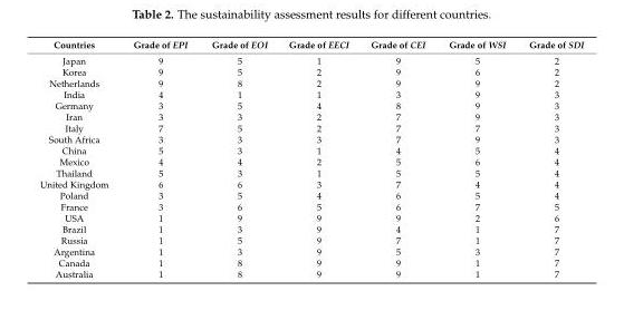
<table><thead><tr><td>Countries</td><td>Grade of EPI</td><td>Grade of EOI</td><td>Grade of EECI</td><td>Grade of CEI</td><td>Grade of WSI</td><td>Grade of SDI</td></tr></thead><tbody><tr><td>Japan</td><td>9</td><td>5</td><td>1</td><td>9</td><td>5</td><td>2</td></tr><tr><td>Korea</td><td>9</td><td>5</td><td>2</td><td>9</td><td>6</td><td>2</td></tr><tr><td>Netherlands</td><td>9</td><td>8</td><td>2</td><td>9</td><td>9</td><td>2</td></tr><tr><td>India</td><td>4</td><td>1</td><td>1</td><td>3</td><td>9</td><td>3</td></tr><tr><td>Germany</td><td>3</td><td>5</td><td>4</td><td>8</td><td>9</td><td>3</td></tr><tr><td>Iran</td><td>3</td><td>3</td><td>2</td><td>7</td><td>9</td><td>3</td></tr><tr><td>Italy</td><td>7</td><td>5</td><td>2</td><td>7</td><td>7</td><td>3</td></tr><tr><td>South Africa</td><td>3</td><td>3</td><td>3</td><td>7</td><td>9</td><td>3</td></tr><tr><td>China</td><td>5</td><td>3</td><td>1</td><td>4</td><td>5</td><td>4</td></tr><tr><td>Mexico</td><td>4</td><td>4</td><td>2</td><td>5</td><td>6</td><td>4</td></tr><tr><td>Thailand</td><td>5</td><td>3</td><td>1</td><td>5</td><td>5</td><td>4</td></tr><tr><td>United Kingdom</td><td>6</td><td>6</td><td>3</td><td>7</td><td>4</td><td>4</td></tr><tr><td>Poland</td><td>3</td><td>5</td><td>4</td><td>6</td><td>5</td><td>4</td></tr><tr><td>France</td><td>3</td><td>6</td><td>5</td><td>6</td><td>7</td><td>5</td></tr><tr><td>USA</td><td>1</td><td>9</td><td>9</td><td>9</td><td>2</td><td>6</td></tr><tr><td>Brazil</td><td>1</td><td>3</td><td>9</td><td>4</td><td>1</td><td>7</td></tr><tr><td>Russia</td><td>1</td><td>5</td><td>9</td><td>7</td><td>1</td><td>7</td></tr><tr><td>Argentina</td><td>1</td><td>3</td><td>9</td><td>5</td><td>3</td><td>7</td></tr><tr><td>Canada</td><td>1</td><td>8</td><td>9</td><td>9</td><td>1</td><td>7</td></tr><tr><td>Australia</td><td>1</td><td>8</td><td>9</td><td>9</td><td>1</td><td>7</td></tr></tbody></table>